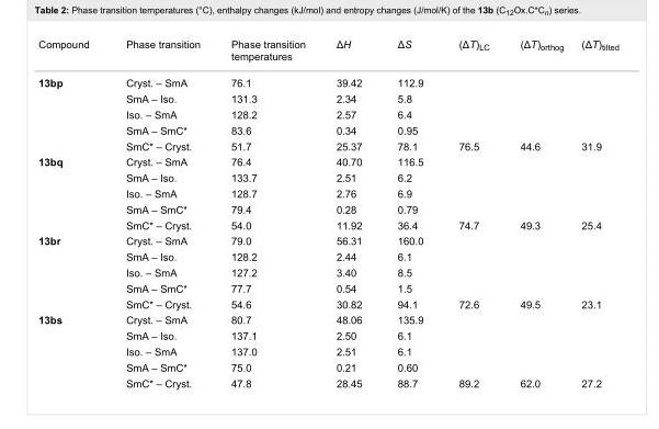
<table><tbody><tr><td>Compound</td><td>Phase transition</td><td>Phase transition temperatures</td><td>ΔH</td><td>ΔS</td><td>(ΔΤ)<sub>LC</sub></td><td>(ΔΤ)<sub>orthog</sub></td><td>(ΔΤ)<sub>tilted</sub></td></tr><tr><td rowspan="5">13bp</td><td>Cryst. – SmA</td><td>76.1</td><td>39.42</td><td>112.9</td><td></td><td></td><td></td></tr><tr><td>SmA – Iso.</td><td>131.3</td><td>2.34</td><td>5.8</td><td></td><td></td><td></td></tr><tr><td>Iso. – SmA</td><td>128.2</td><td>2.57</td><td>6.4</td><td></td><td></td><td></td></tr><tr><td>SmA – SmC*</td><td>83.6</td><td>0.34</td><td>0.95</td><td></td><td></td><td></td></tr><tr><td>SmC* – Cryst.</td><td>51.7</td><td>25.37</td><td>78.1</td><td>76.5</td><td>44.6</td><td>31.9</td></tr><tr><td rowspan="5">13bq</td><td>Cryst. – SmA</td><td>76.4</td><td>40.70</td><td>116.5</td><td></td><td></td><td></td></tr><tr><td>SmA – Iso.</td><td>133.7</td><td>2.51</td><td>6.2</td><td></td><td></td><td></td></tr><tr><td>Iso. – SmA</td><td>128.7</td><td>2.76</td><td>6.9</td><td></td><td></td><td></td></tr><tr><td>SmA – SmC*</td><td>79.4</td><td>0.28</td><td>0.79</td><td></td><td></td><td></td></tr><tr><td>SmC* – Cryst.</td><td>54.0</td><td>11.92</td><td>36.4</td><td>74.7</td><td>49.3</td><td>25.4</td></tr><tr><td rowspan="5">13br</td><td>Cryst. – SmA</td><td>79.0</td><td>56.31</td><td>160.0</td><td></td><td></td><td></td></tr><tr><td>SmA – Iso.</td><td>128.2</td><td>2.44</td><td>6.1</td><td></td><td></td><td></td></tr><tr><td>Iso. – SmA</td><td>127.2</td><td>3.40</td><td>8.5</td><td></td><td></td><td></td></tr><tr><td>SmA – SmC*</td><td>77.7</td><td>0.54</td><td>1.5</td><td></td><td></td><td></td></tr><tr><td>SmC* – Cryst.</td><td>54.6</td><td>30.82</td><td>94.1</td><td>72.6</td><td>49.5</td><td>23.1</td></tr><tr><td rowspan="5">13bs</td><td>Cryst. – SmA</td><td>80.7</td><td>48.06</td><td>135.9</td><td></td><td></td><td></td></tr><tr><td>SmA – Iso.</td><td>137.1</td><td>2.50</td><td>6.1</td><td></td><td></td><td></td></tr><tr><td>Iso. – SmA</td><td>137.0</td><td>2.51</td><td>6.1</td><td></td><td></td><td></td></tr><tr><td>SmA – SmC*</td><td>75.0</td><td>0.21</td><td>0.60</td><td></td><td></td><td></td></tr><tr><td>SmC* – Cryst.</td><td>47.8</td><td>28.45</td><td>88.7</td><td>89.2</td><td>62.0</td><td>27.2</td></tr></tbody></table>